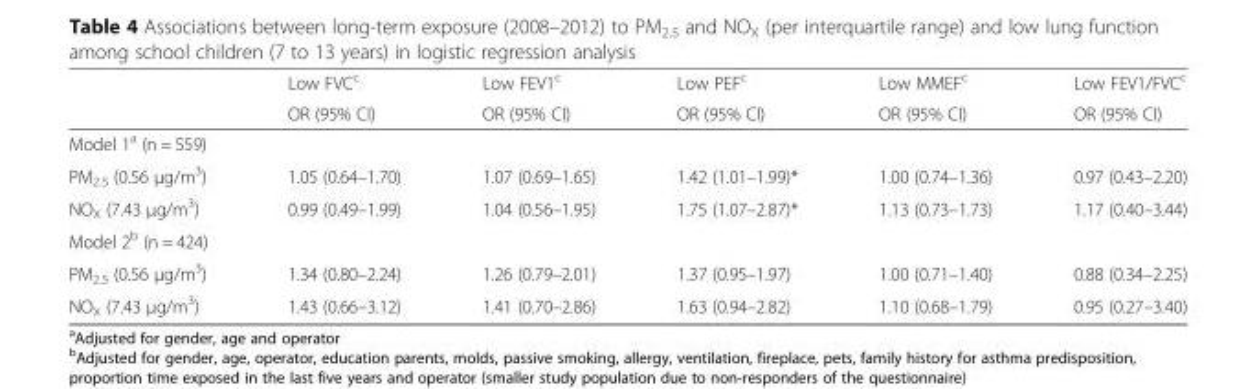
<table><thead><tr><td rowspan="2"></td><td rowspan="2">Low FVC<sup>c</sup> OR (95% CI)</td><td rowspan="2">Low FEV1<sup>c</sup> OR (95% CI)</td><td rowspan="2">Low PEF<sup>c</sup> OR (95% CI)</td><td rowspan="2">Low MMEF<sup>c</sup> OR (95% CI)</td><td rowspan="2">Low FEV1/FVC<sup>c</sup> OR (95% CI)</td></tr><tr></tr></thead><tbody><tr><td colspan="6">Model 1<sup>a</sup> (n = 559)</td></tr><tr><td>PM<sub>2.5</sub> (0.56 μg/m<sup>3</sup>)</td><td>1.05 (0.64–1.70)</td><td>1.07 (0.69–1.65)</td><td>1.42 (1.01–1.99)*</td><td>1.00 (0.74–1.36)</td><td>0.97 (0.43–2.20)</td></tr><tr><td>NO<sub>X</sub> (7.43 μg/m<sup>3</sup>)</td><td>0.99 (0.49–1.99)</td><td>1.04 (0.56–1.95)</td><td>1.75 (1.07–2.87)*</td><td>1.13 (0.73–1.73)</td><td>1.17 (0.40–3.44)</td></tr><tr><td colspan="6">Model 2<sup>b</sup> (n = 424)</td></tr><tr><td>PM<sub>2.5</sub> (0.56 μg/m<sup>3</sup>)</td><td>1.34 (0.80–2.24)</td><td>1.26 (0.79–2.01)</td><td>1.37 (0.95–1.97)</td><td>1.00 (0.71–1.40)</td><td>0.88 (0.34–2.25)</td></tr><tr><td>NO<sub>X</sub> (7.43 μg/m<sup>3</sup>)</td><td>1.43 (0.66–3.12)</td><td>1.41 (0.70–2.86)</td><td>1.63 (0.94–2.82)</td><td>1.10 (0.68–1.79)</td><td>0.95 (0.27–3.40)</td></tr></tbody></table>